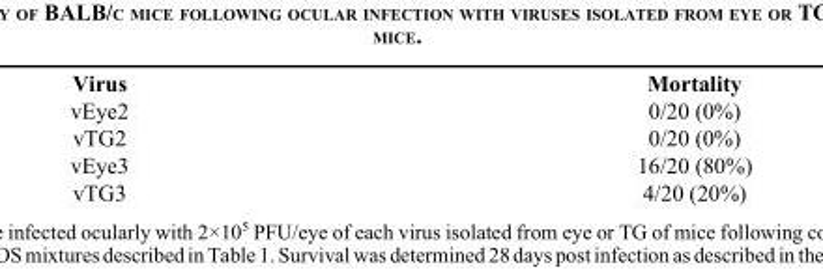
<table><thead><tr><td>Virus</td><td>Mortality</td></tr></thead><tbody><tr><td>vEye2</td><td>0/20 (0%)</td></tr><tr><td>vTG2</td><td>0/20 (0%)</td></tr><tr><td>vEye3</td><td>16/20 (80%)</td></tr><tr><td>vTG3</td><td>4/20 (20%)</td></tr></tbody></table>